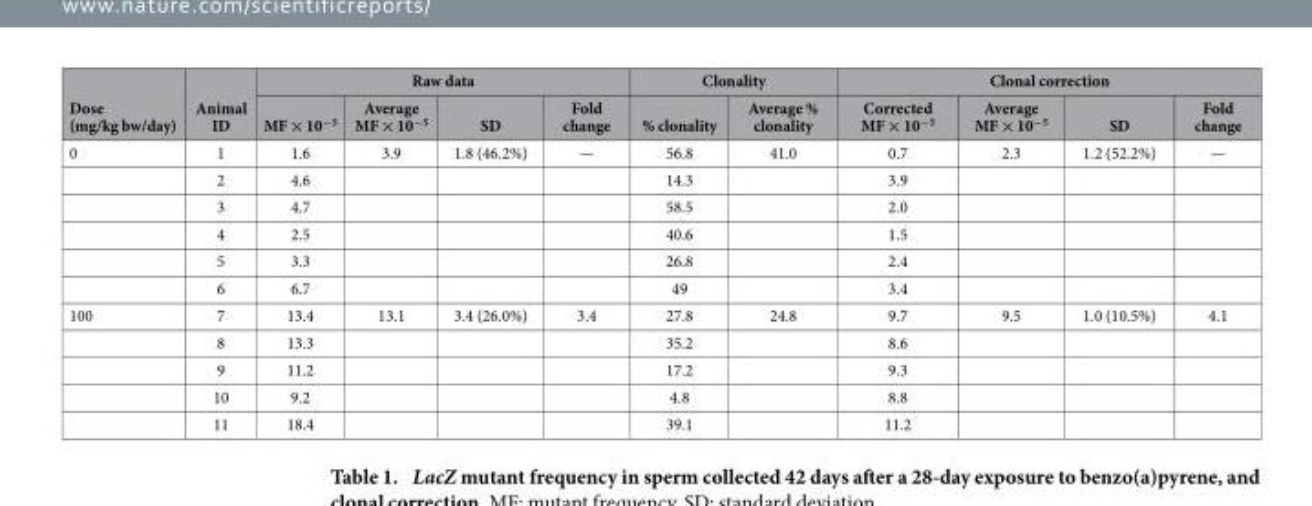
<table><thead><tr><td rowspan="2">Dose (mg/kg bw/day)</td><td rowspan="2">Animal ID</td><td colspan="4">Raw data</td><td colspan="2">Clonality</td><td colspan="4">Clonal correction</td></tr><tr><td>MF × 10<sup>−5</sup></td><td>Average MF × 10<sup>−5</sup></td><td>SD</td><td>Fold change</td><td>% clonality</td><td>Average % clonality</td><td>Corrected MF × 10<sup>−5</sup></td><td>Average MF × 10<sup>−5</sup></td><td>SD</td><td>Fold change</td></tr></thead><tbody><tr><td rowspan="6">0</td><td>1</td><td>1.6</td><td>3.9</td><td>1.8 (46.2%)</td><td>—</td><td>56.8</td><td>41.0</td><td>0.7</td><td>2.3</td><td>1.2 (52.2%)</td><td>—</td></tr><tr><td>2</td><td>4.6</td><td></td><td></td><td></td><td>14.3</td><td></td><td>3.9</td><td></td><td></td><td></td></tr><tr><td>3</td><td>4.7</td><td></td><td></td><td></td><td>58.5</td><td></td><td>2.0</td><td></td><td></td><td></td></tr><tr><td>4</td><td>2.5</td><td></td><td></td><td></td><td>40.6</td><td></td><td>1.5</td><td></td><td></td><td></td></tr><tr><td>5</td><td>3.3</td><td></td><td></td><td></td><td>26.8</td><td></td><td>2.4</td><td></td><td></td><td></td></tr><tr><td>6</td><td>6.7</td><td></td><td></td><td></td><td>49</td><td></td><td>3.4</td><td></td><td></td><td></td></tr><tr><td rowspan="5">100</td><td>7</td><td>13.4</td><td>13.1</td><td>3.4 (26.0%)</td><td>3.4</td><td>27.8</td><td>24.8</td><td>9.7</td><td>9.5</td><td>1.0 (10.5%)</td><td>4.1</td></tr><tr><td>8</td><td>13.3</td><td></td><td></td><td></td><td>35.2</td><td></td><td>8.6</td><td></td><td></td><td></td></tr><tr><td>9</td><td>11.2</td><td></td><td></td><td></td><td>17.2</td><td></td><td>9.3</td><td></td><td></td><td></td></tr><tr><td>10</td><td>9.2</td><td></td><td></td><td></td><td>4.8</td><td></td><td>8.8</td><td></td><td></td><td></td></tr><tr><td>11</td><td>18.4</td><td></td><td></td><td></td><td>39.1</td><td></td><td>11.2</td><td></td><td></td><td></td></tr></tbody></table>